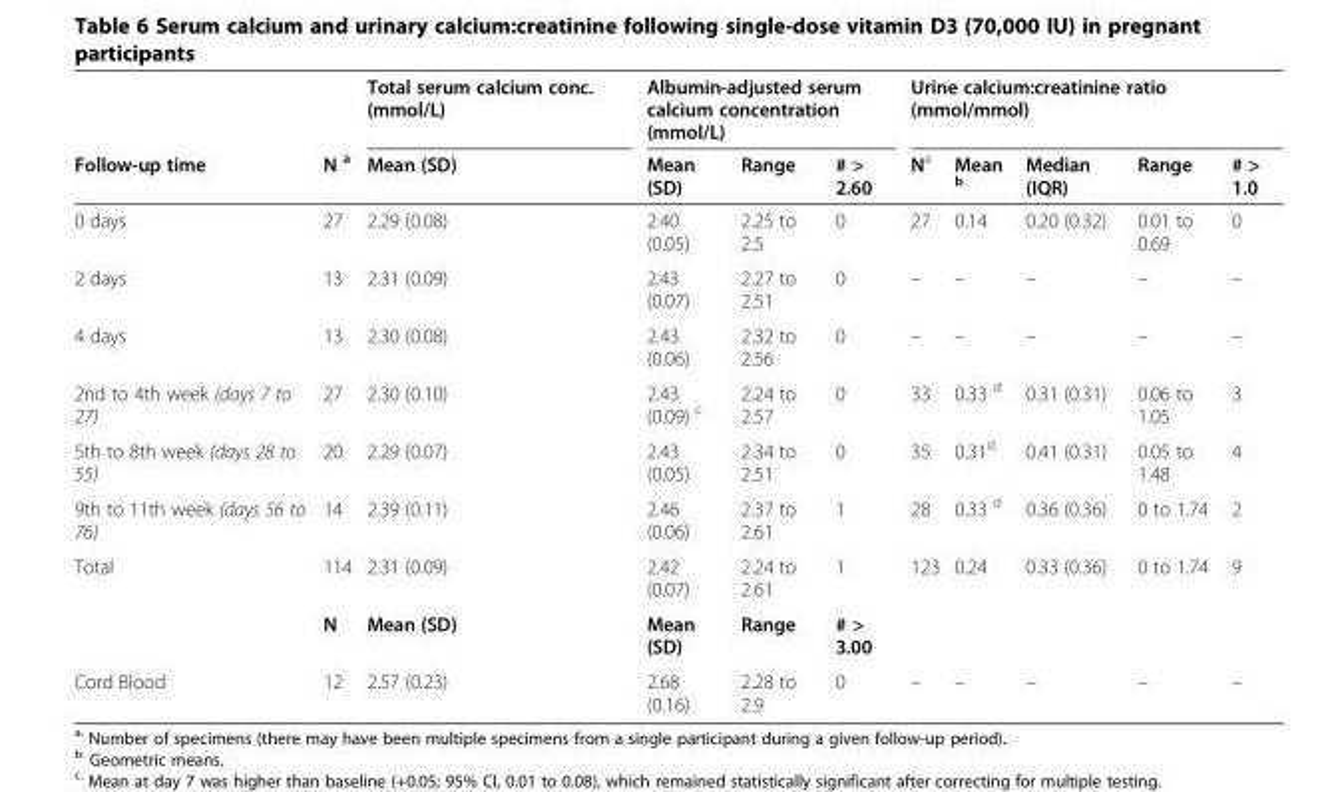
<table><thead><tr><td rowspan="2">Follow-up time</td><td rowspan="2">N a</td><td rowspan="2">Total serum calcium conc. (mmol/L) Mean (SD)</td><td colspan="3">Albumin-adjusted serum calcium concentration (mmol/L)</td><td colspan="5">Urine calcium:creatinine ratio (mmol/mmol)</td></tr><tr><td>Mean (SD)</td><td>Range</td><td># &gt; 2.60</td><td>N<sup>a</sup></td><td>Mean <sup>b</sup></td><td>Median (IQR)</td><td>Range</td><td># &gt; 1.0</td></tr></thead><tbody><tr><td>0 days</td><td>27</td><td>2.29 (0.08)</td><td>2.40 (0.05)</td><td>2.25 to 2.5</td><td>0</td><td>27</td><td>0.14</td><td>0.20 (0.32)</td><td>0.01 to 0.69</td><td>0</td></tr><tr><td>2 days</td><td>13</td><td>2.31 (0.09)</td><td>2.43 (0.07)</td><td>2.27 to 2.51</td><td>0</td><td>–</td><td>–</td><td>–</td><td>–</td><td>–</td></tr><tr><td>4 days</td><td>13</td><td>2.30 (0.08)</td><td>2.43 (0.06)</td><td>2.32 to 2.56</td><td>0</td><td>–</td><td>–</td><td>–</td><td>–</td><td>–</td></tr><tr><td>2nd to 4th week (days 7 to 27)</td><td>27</td><td>2.30 (0.10)</td><td>2.43 (0.09) <sup>c</sup></td><td>2.24 to 2.57</td><td>0</td><td>33</td><td>0.33 <sup>d</sup></td><td>0.31 (0.31)</td><td>0.06 to 1.05</td><td>3</td></tr><tr><td>5th to 8th week (days 28 to 55)</td><td>20</td><td>2.29 (0.07)</td><td>2.43 (0.05)</td><td>2.34 to 2.51</td><td>0</td><td>35</td><td>0.31<sup>d</sup></td><td>0.41 (0.31)</td><td>0.05 to 1.48</td><td>4</td></tr><tr><td>9th to 11th week (days 56 to 76)</td><td>14</td><td>2.39 (0.11)</td><td>2.46 (0.06)</td><td>2.37 to 2.61</td><td>1</td><td>28</td><td>0.33 <sup>d</sup></td><td>0.36 (0.36)</td><td>0 to 1.74</td><td>2</td></tr><tr><td rowspan="2">Total</td><td>114</td><td>2.31 (0.09)</td><td>2.42 (0.07)</td><td>2.24 to 2.61</td><td>1</td><td>123</td><td>0.24</td><td>0.33 (0.36)</td><td>0 to 1.74</td><td>9</td></tr><tr><td>N</td><td>Mean (SD)</td><td>Mean (SD)</td><td>Range</td><td># &gt; 3.00</td><td></td><td></td><td></td><td></td><td></td></tr><tr><td>Cord Blood</td><td>12</td><td>2.57 (0.23)</td><td>2.68 (0.16)</td><td>2.28 to 2.9</td><td>0</td><td>–</td><td>–</td><td>–</td><td>–</td><td>–</td></tr></tbody></table>